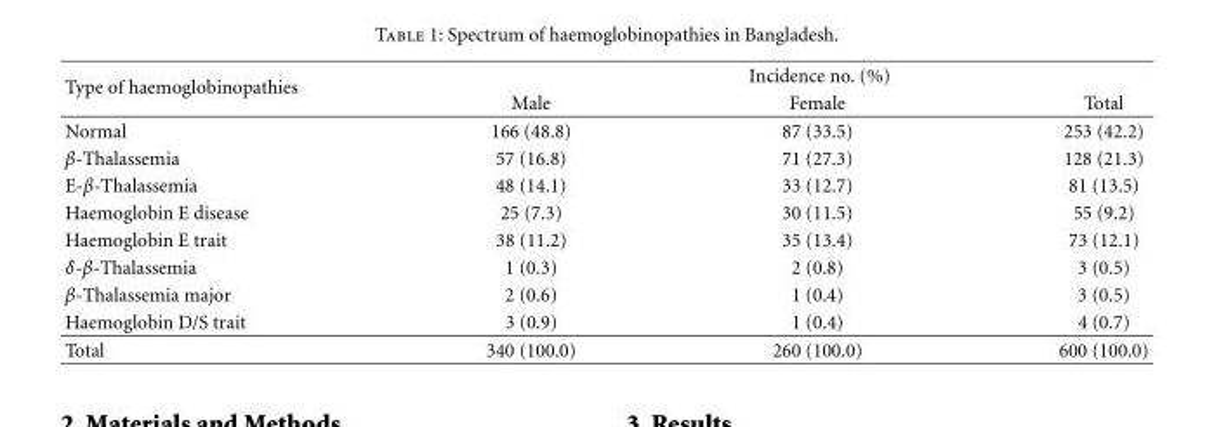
<table><thead><tr><td rowspan="2">Type of haemoglobinopathies</td><td colspan="3">Incidence no. (%)</td></tr><tr><td>Male</td><td>Female</td><td>Total</td></tr></thead><tbody><tr><td>Normal</td><td>166 (48.8)</td><td>87 (33.5)</td><td>253 (42.2)</td></tr><tr><td>β-Thalassemia</td><td>57 (16.8)</td><td>71 (27.3)</td><td>128 (21.3)</td></tr><tr><td>E-β-Thalassemia</td><td>48 (14.1)</td><td>33 (12.7)</td><td>81 (13.5)</td></tr><tr><td>Haemoglobin E disease</td><td>25 (7.3)</td><td>30 (11.5)</td><td>55 (9.2)</td></tr><tr><td>Haemoglobin E trait</td><td>38 (11.2)</td><td>35 (13.4)</td><td>73 (12.1)</td></tr><tr><td>δ-β-Thalassemia</td><td>1 (0.3)</td><td>2 (0.8)</td><td>3 (0.5)</td></tr><tr><td>β-Thalassemia major</td><td>2 (0.6)</td><td>1 (0.4)</td><td>3 (0.5)</td></tr><tr><td>Haemoglobin D/S trait</td><td>3 (0.9)</td><td>1 (0.4)</td><td>4 (0.7)</td></tr><tr><td>Total</td><td>340 (100.0)</td><td>260 (100.0)</td><td>600 (100.0)</td></tr></tbody></table>